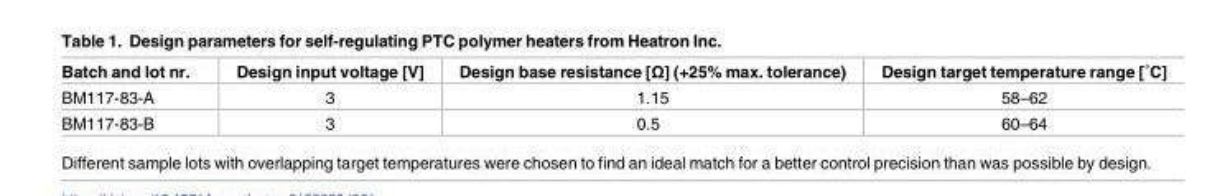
<table><thead><tr><td>Batch and lot nr.</td><td>Design input voltage [V]</td><td>Design base resistance [Ω] (+25% max. tolerance)</td><td>Design target temperature range [˚C]</td></tr></thead><tbody><tr><td>BM117-83-A</td><td>3</td><td>1.15</td><td>58–62</td></tr><tr><td>BM117-83-B</td><td>3</td><td>0.5</td><td>60–64</td></tr></tbody></table>